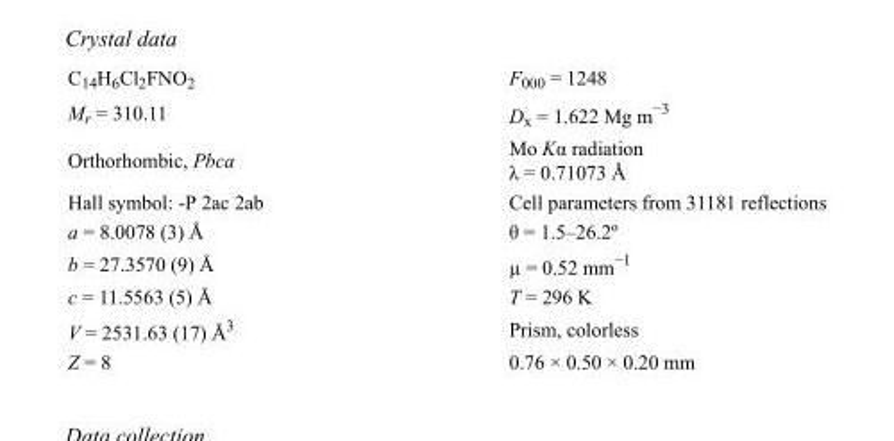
<table><tbody><tr><td>C<sub>14</sub>H<sub>6</sub>Cl<sub>2</sub>FNO<sub>2</sub></td><td>F<sub>000</sub> = 1248</td></tr><tr><td>M<sub>r</sub> = 310.11</td><td>D<sub>x</sub> = 1.622 Mg m<sup>−3</sup></td></tr><tr><td>Orthorhombic, Pbca</td><td>Mo Kα radiation λ = 0.71073 Å</td></tr><tr><td>Hall symbol: -P 2ac 2ab</td><td>Cell parameters from 31181 reflections</td></tr><tr><td>a = 8.0078 (3) Å</td><td>θ = 1.5–26.2º</td></tr><tr><td>b = 27.3570 (9) Å</td><td>µ = 0.52 mm<sup>−1</sup></td></tr><tr><td>c = 11.5563 (5) Å</td><td>T = 296 K</td></tr><tr><td>V = 2531.63 (17) Å<sup>3</sup></td><td>Prism, colorless</td></tr><tr><td>Z = 8</td><td>0.76 × 0.50 × 0.20 mm</td></tr></tbody></table>